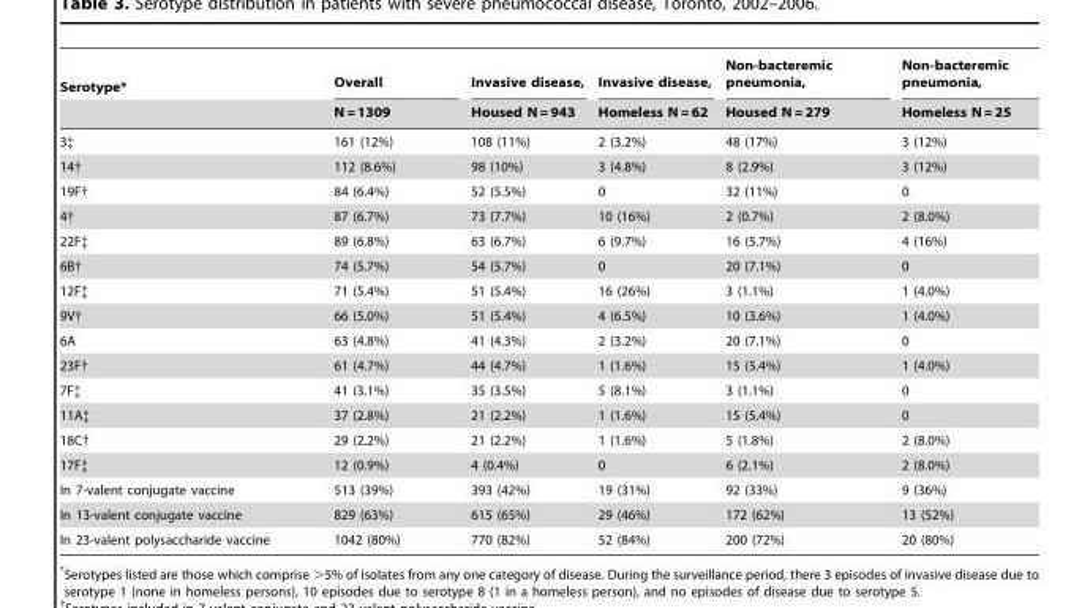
<table><thead><tr><td rowspan="2">Serotype*</td><td rowspan="2">Overall N = 1309</td><td rowspan="2">Invasive disease, Housed N = 943</td><td rowspan="2">Invasive disease, Homeless N = 62</td><td rowspan="2">Non-bacteremic pneumonia, Housed N = 279</td><td rowspan="2">Non-bacteremic pneumonia, Homeless N = 25</td></tr><tr></tr></thead><tbody><tr><td>3‡</td><td>161 (12%)</td><td>108 (11%)</td><td>2 (3.2%)</td><td>48 (17%)</td><td>3 (12%)</td></tr><tr><td>14†</td><td>112 (8.6%)</td><td>98 (10%)</td><td>3 (4.8%)</td><td>8 (2.9%)</td><td>3 (12%)</td></tr><tr><td>19F†</td><td>84 (6.4%)</td><td>52 (5.5%)</td><td>0</td><td>32 (11%)</td><td>0</td></tr><tr><td>4†</td><td>87 (6.7%)</td><td>73 (7.7%)</td><td>10 (16%)</td><td>2 (0.7%)</td><td>2 (8.0%)</td></tr><tr><td>22F‡</td><td>89 (6.8%)</td><td>63 (6.7%)</td><td>6 (9.7%)</td><td>16 (5.7%)</td><td>4 (16%)</td></tr><tr><td>6B†</td><td>74 (5.7%)</td><td>54 (5.7%)</td><td>0</td><td>20 (7.1%)</td><td>0</td></tr><tr><td>12F‡</td><td>71 (5.4%)</td><td>51 (5.4%)</td><td>16 (26%)</td><td>3 (1.1%)</td><td>1 (4.0%)</td></tr><tr><td>9V†</td><td>66 (5.0%)</td><td>51 (5.4%)</td><td>4 (6.5%)</td><td>10 (3.6%)</td><td>1 (4.0%)</td></tr><tr><td>6A</td><td>63 (4.8%)</td><td>41 (4.3%)</td><td>2 (3.2%)</td><td>20 (7.1%)</td><td>0</td></tr><tr><td>23F†</td><td>61 (4.7%)</td><td>44 (4.7%)</td><td>1 (1.6%)</td><td>15 (5.4%)</td><td>1 (4.0%)</td></tr><tr><td>7F‡</td><td>41 (3.1%)</td><td>35 (3.5%)</td><td>5 (8.1%)</td><td>3 (1.1%)</td><td>0</td></tr><tr><td>11A‡</td><td>37 (2.8%)</td><td>21 (2.2%)</td><td>1 (1.6%)</td><td>15 (5.4%)</td><td>0</td></tr><tr><td>18C†</td><td>29 (2.2%)</td><td>21 (2.2%)</td><td>1 (1.6%)</td><td>5 (1.8%)</td><td>2 (8.0%)</td></tr><tr><td>17F‡</td><td>12 (0.9%)</td><td>4 (0.4%)</td><td>0</td><td>6 (2.1%)</td><td>2 (8.0%)</td></tr><tr><td>In 7-valent conjugate vaccine</td><td>513 (39%)</td><td>393 (42%)</td><td>19 (31%)</td><td>92 (33%)</td><td>9 (36%)</td></tr><tr><td>In 13-valent conjugate vaccine</td><td>829 (63%)</td><td>615 (65%)</td><td>29 (46%)</td><td>172 (62%)</td><td>13 (52%)</td></tr><tr><td>In 23-valent polysaccharide vaccine</td><td>1042 (80%)</td><td>770 (82%)</td><td>52 (84%)</td><td>200 (72%)</td><td>20 (80%)</td></tr></tbody></table>